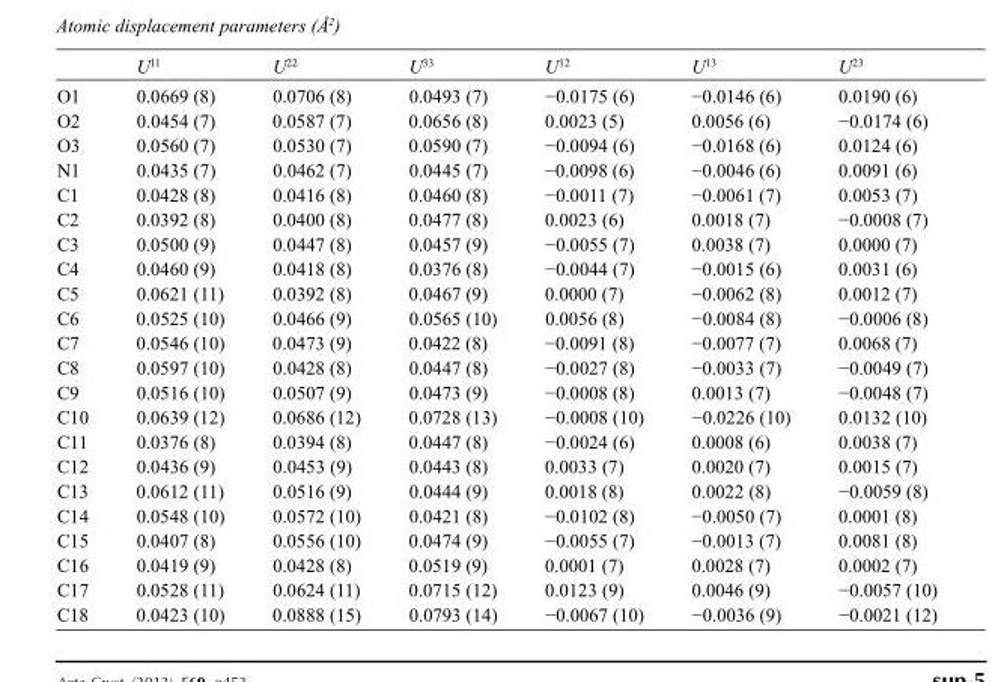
<table><thead><tr><td></td><td>U<sup>11</sup></td><td>U<sup>22</sup></td><td>U<sup>33</sup></td><td>U<sup>12</sup></td><td>U<sup>13</sup></td><td>U<sup>23</sup></td></tr></thead><tbody><tr><td>O1</td><td>0.0669 (8)</td><td>0.0706 (8)</td><td>0.0493 (7)</td><td>−0.0175 (6)</td><td>−0.0146 (6)</td><td>0.0190 (6)</td></tr><tr><td>O2</td><td>0.0454 (7)</td><td>0.0587 (7)</td><td>0.0656 (8)</td><td>0.0023 (5)</td><td>0.0056 (6)</td><td>−0.0174 (6)</td></tr><tr><td>O3</td><td>0.0560 (7)</td><td>0.0530 (7)</td><td>0.0590 (7)</td><td>−0.0094 (6)</td><td>−0.0168 (6)</td><td>0.0124 (6)</td></tr><tr><td>N1</td><td>0.0435 (7)</td><td>0.0462 (7)</td><td>0.0445 (7)</td><td>−0.0098 (6)</td><td>−0.0046 (6)</td><td>0.0091 (6)</td></tr><tr><td>C1</td><td>0.0428 (8)</td><td>0.0416 (8)</td><td>0.0460 (8)</td><td>−0.0011 (7)</td><td>−0.0061 (7)</td><td>0.0053 (7)</td></tr><tr><td>C2</td><td>0.0392 (8)</td><td>0.0400 (8)</td><td>0.0477 (8)</td><td>0.0023 (6)</td><td>0.0018 (7)</td><td>−0.0008 (7)</td></tr><tr><td>C3</td><td>0.0500 (9)</td><td>0.0447 (8)</td><td>0.0457 (9)</td><td>−0.0055 (7)</td><td>0.0038 (7)</td><td>0.0000 (7)</td></tr><tr><td>C4</td><td>0.0460 (9)</td><td>0.0418 (8)</td><td>0.0376 (8)</td><td>−0.0044 (7)</td><td>−0.0015 (6)</td><td>0.0031 (6)</td></tr><tr><td>C5</td><td>0.0621 (11)</td><td>0.0392 (8)</td><td>0.0467 (9)</td><td>0.0000 (7)</td><td>−0.0062 (8)</td><td>0.0012 (7)</td></tr><tr><td>C6</td><td>0.0525 (10)</td><td>0.0466 (9)</td><td>0.0565 (10)</td><td>0.0056 (8)</td><td>−0.0084 (8)</td><td>−0.0006 (8)</td></tr><tr><td>C7</td><td>0.0546 (10)</td><td>0.0473 (9)</td><td>0.0422 (8)</td><td>−0.0091 (8)</td><td>−0.0077 (7)</td><td>0.0068 (7)</td></tr><tr><td>C8</td><td>0.0597 (10)</td><td>0.0428 (8)</td><td>0.0447 (8)</td><td>−0.0027 (8)</td><td>−0.0033 (7)</td><td>−0.0049 (7)</td></tr><tr><td>C9</td><td>0.0516 (10)</td><td>0.0507 (9)</td><td>0.0473 (9)</td><td>−0.0008 (8)</td><td>0.0013 (7)</td><td>−0.0048 (7)</td></tr><tr><td>C10</td><td>0.0639 (12)</td><td>0.0686 (12)</td><td>0.0728 (13)</td><td>−0.0008 (10)</td><td>−0.0226 (10)</td><td>0.0132 (10)</td></tr><tr><td>C11</td><td>0.0376 (8)</td><td>0.0394 (8)</td><td>0.0447 (8)</td><td>−0.0024 (6)</td><td>0.0008 (6)</td><td>0.0038 (7)</td></tr><tr><td>C12</td><td>0.0436 (9)</td><td>0.0453 (9)</td><td>0.0443 (8)</td><td>0.0033 (7)</td><td>0.0020 (7)</td><td>0.0015 (7)</td></tr><tr><td>C13</td><td>0.0612 (11)</td><td>0.0516 (9)</td><td>0.0444 (9)</td><td>0.0018 (8)</td><td>0.0022 (8)</td><td>−0.0059 (8)</td></tr><tr><td>C14</td><td>0.0548 (10)</td><td>0.0572 (10)</td><td>0.0421 (8)</td><td>−0.0102 (8)</td><td>−0.0050 (7)</td><td>0.0001 (8)</td></tr><tr><td>C15</td><td>0.0407 (8)</td><td>0.0556 (10)</td><td>0.0474 (9)</td><td>−0.0055 (7)</td><td>−0.0013 (7)</td><td>0.0081 (8)</td></tr><tr><td>C16</td><td>0.0419 (9)</td><td>0.0428 (8)</td><td>0.0519 (9)</td><td>0.0001 (7)</td><td>0.0028 (7)</td><td>0.0002 (7)</td></tr><tr><td>C17</td><td>0.0528 (11)</td><td>0.0624 (11)</td><td>0.0715 (12)</td><td>0.0123 (9)</td><td>0.0046 (9)</td><td>−0.0057 (10)</td></tr><tr><td>C18</td><td>0.0423 (10)</td><td>0.0888 (15)</td><td>0.0793 (14)</td><td>−0.0067 (10)</td><td>−0.0036 (9)</td><td>−0.0021 (12)</td></tr></tbody></table>